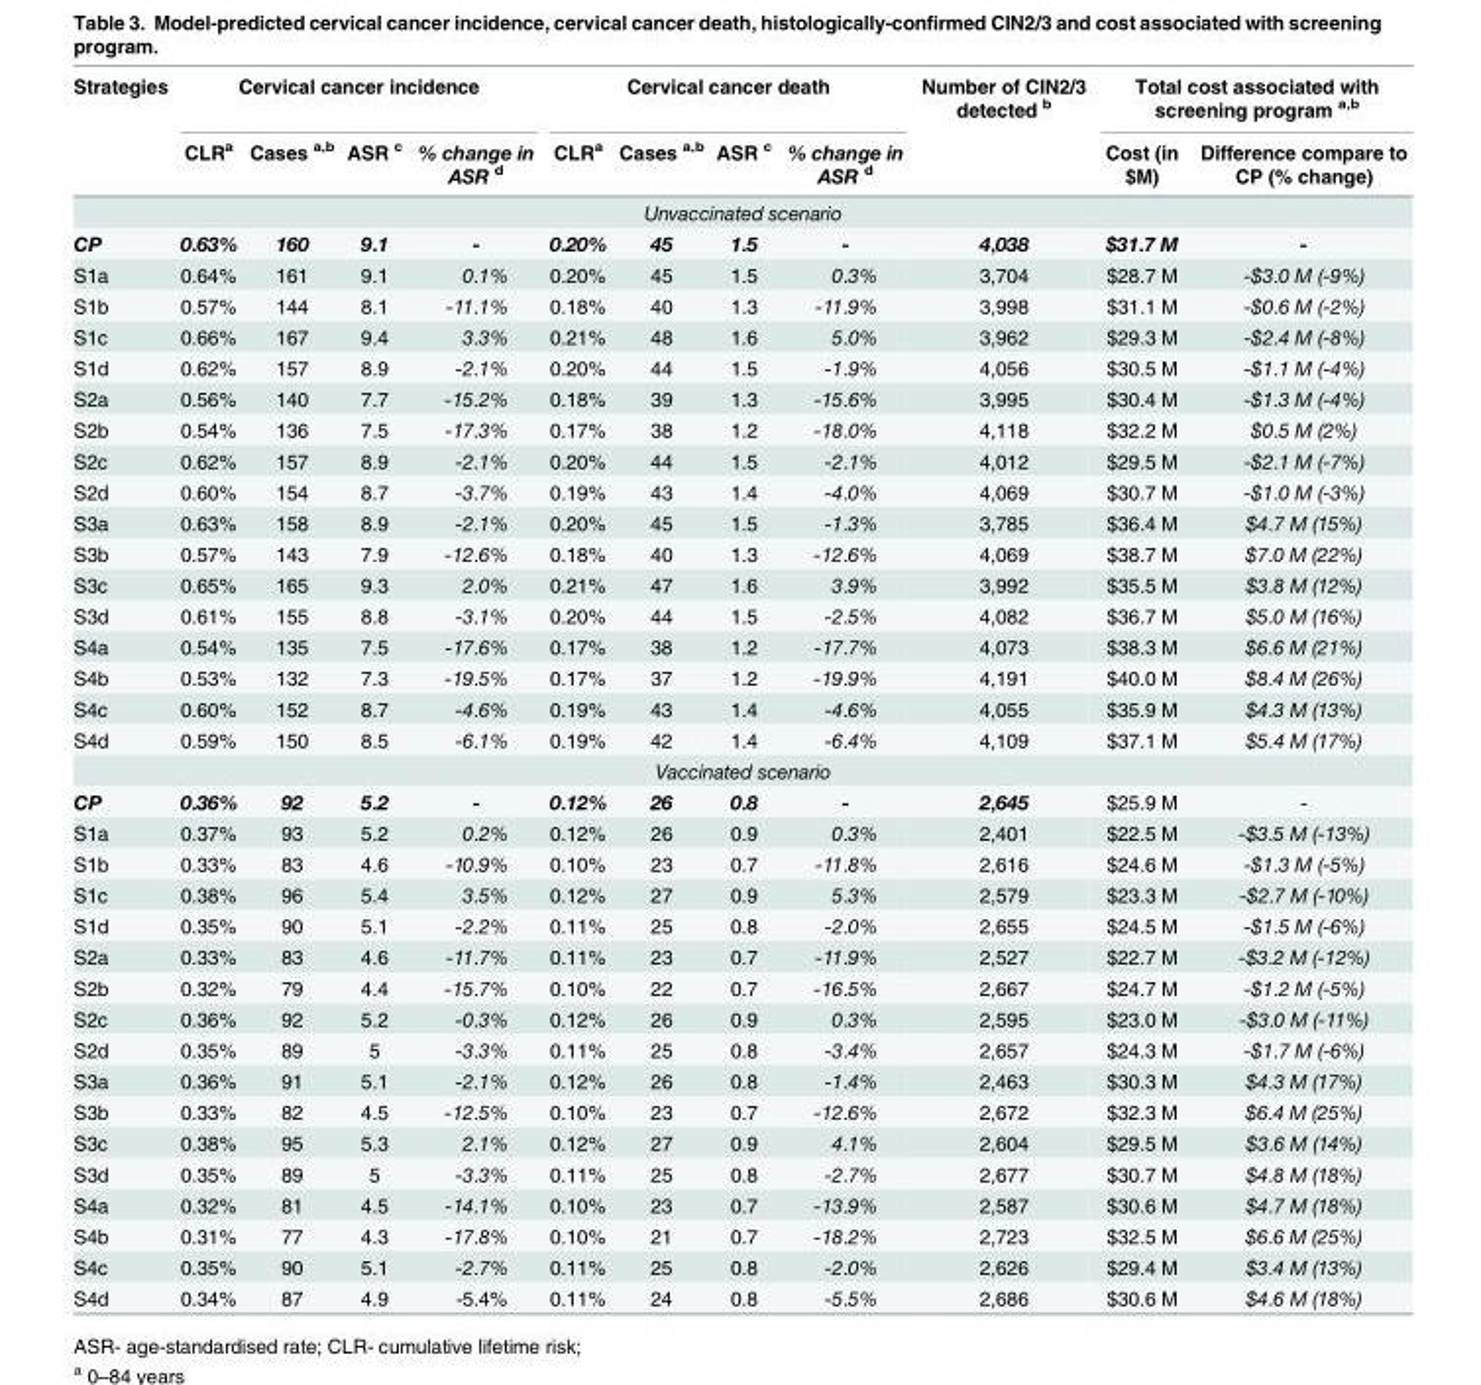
<table><thead><tr><td rowspan="2">Strategies</td><td colspan="4">Cervical cancer incidence</td><td colspan="4">Cervical cancer death</td><td rowspan="2">Number of CIN2/3 detected <sup>b</sup></td><td colspan="2">Total cost associated with screening program <sup>a,b</sup></td></tr><tr><td>CLR<sup>a</sup></td><td>Cases <sup>a,b</sup></td><td>ASR <sup>c</sup></td><td>% change in ASR <sup>d</sup></td><td>CLR<sup>a</sup></td><td>Cases <sup>a,b</sup></td><td>ASR <sup>c</sup></td><td>% change in ASR <sup>d</sup></td><td>Cost (in $M)</td><td>Difference compare to CP (% change)</td></tr></thead><tbody><tr><td colspan="12">Unvaccinated scenario</td></tr><tr><td>CP</td><td>0.63%</td><td>160</td><td>9.1</td><td>-</td><td>0.20%</td><td>45</td><td>1.5</td><td>-</td><td>4,038</td><td>$31.7 M</td><td>-</td></tr><tr><td>S1a</td><td>0.64%</td><td>161</td><td>9.1</td><td>0.1%</td><td>0.20%</td><td>45</td><td>1.5</td><td>0.3%</td><td>3,704</td><td>$28.7 M</td><td>-$3.0 M (-9%)</td></tr><tr><td>S1b</td><td>0.57%</td><td>144</td><td>8.1</td><td>-11.1%</td><td>0.18%</td><td>40</td><td>1.3</td><td>-11.9%</td><td>3,998</td><td>$31.1 M</td><td>-$0.6 M (-2%)</td></tr><tr><td>S1c</td><td>0.66%</td><td>167</td><td>9.4</td><td>3.3%</td><td>0.21%</td><td>48</td><td>1.6</td><td>5.0%</td><td>3,962</td><td>$29.3 M</td><td>-$2.4 M (-8%)</td></tr><tr><td>S1d</td><td>0.62%</td><td>157</td><td>8.9</td><td>-2.1%</td><td>0.20%</td><td>44</td><td>1.5</td><td>-1.9%</td><td>4,056</td><td>$30.5 M</td><td>-$1.1 M (-4%)</td></tr><tr><td>S2a</td><td>0.56%</td><td>140</td><td>7.7</td><td>-15.2%</td><td>0.18%</td><td>39</td><td>1.3</td><td>-15.6%</td><td>3,995</td><td>$30.4 M</td><td>-$1.3 M (-4%)</td></tr><tr><td>S2b</td><td>0.54%</td><td>136</td><td>7.5</td><td>-17.3%</td><td>0.17%</td><td>38</td><td>1.2</td><td>-18.0%</td><td>4,118</td><td>$32.2 M</td><td>$0.5 M (2%)</td></tr><tr><td>S2c</td><td>0.62%</td><td>157</td><td>8.9</td><td>-2.1%</td><td>0.20%</td><td>44</td><td>1.5</td><td>-2.1%</td><td>4,012</td><td>$29.5 M</td><td>-$2.1 M (-7%)</td></tr><tr><td>S2d</td><td>0.60%</td><td>154</td><td>8.7</td><td>-3.7%</td><td>0.19%</td><td>43</td><td>1.4</td><td>-4.0%</td><td>4,069</td><td>$30.7 M</td><td>-$1.0 M (-3%)</td></tr><tr><td>S3a</td><td>0.63%</td><td>158</td><td>8.9</td><td>-2.1%</td><td>0.20%</td><td>45</td><td>1.5</td><td>-1.3%</td><td>3,785</td><td>$36.4 M</td><td>$4.7 M (15%)</td></tr><tr><td>S3b</td><td>0.57%</td><td>143</td><td>7.9</td><td>-12.6%</td><td>0.18%</td><td>40</td><td>1.3</td><td>-12.6%</td><td>4,069</td><td>$38.7 M</td><td>$7.0 M (22%)</td></tr><tr><td>S3c</td><td>0.65%</td><td>165</td><td>9.3</td><td>2.0%</td><td>0.21%</td><td>47</td><td>1.6</td><td>3.9%</td><td>3,992</td><td>$35.5 M</td><td>$3.8 M (12%)</td></tr><tr><td>S3d</td><td>0.61%</td><td>155</td><td>8.8</td><td>-3.1%</td><td>0.20%</td><td>44</td><td>1.5</td><td>-2.5%</td><td>4,082</td><td>$36.7 M</td><td>$5.0 M (16%)</td></tr><tr><td>S4a</td><td>0.54%</td><td>135</td><td>7.5</td><td>-17.6%</td><td>0.17%</td><td>38</td><td>1.2</td><td>-17.7%</td><td>4,073</td><td>$38.3 M</td><td>$6.6 M (21%)</td></tr><tr><td>S4b</td><td>0.53%</td><td>132</td><td>7.3</td><td>-19.5%</td><td>0.17%</td><td>37</td><td>1.2</td><td>-19.9%</td><td>4,191</td><td>$40.0 M</td><td>$8.4 M (26%)</td></tr><tr><td>S4c</td><td>0.60%</td><td>152</td><td>8.7</td><td>-4.6%</td><td>0.19%</td><td>43</td><td>1.4</td><td>-4.6%</td><td>4,055</td><td>$35.9 M</td><td>$4.3 M (13%)</td></tr><tr><td>S4d</td><td>0.59%</td><td>150</td><td>8.5</td><td>-6.1%</td><td>0.19%</td><td>42</td><td>1.4</td><td>-6.4%</td><td>4,109</td><td>$37.1 M</td><td>$5.4 M (17%)</td></tr><tr><td colspan="12">Vaccinated scenario</td></tr><tr><td>CP</td><td>0.36%</td><td>92</td><td>5.2</td><td>-</td><td>0.12%</td><td>26</td><td>0.8</td><td>-</td><td>2,645</td><td>$25.9 M</td><td>-</td></tr><tr><td>S1a</td><td>0.37%</td><td>93</td><td>5.2</td><td>0.2%</td><td>0.12%</td><td>26</td><td>0.9</td><td>0.3%</td><td>2,401</td><td>$22.5 M</td><td>-$3.5 M (-13%)</td></tr><tr><td>S1b</td><td>0.33%</td><td>83</td><td>4.6</td><td>-10.9%</td><td>0.10%</td><td>23</td><td>0.7</td><td>-11.8%</td><td>2,616</td><td>$24.6 M</td><td>-$1.3 M (-5%)</td></tr><tr><td>S1c</td><td>0.38%</td><td>96</td><td>5.4</td><td>3.5%</td><td>0.12%</td><td>27</td><td>0.9</td><td>5.3%</td><td>2,579</td><td>$23.3 M</td><td>-$2.7 M (-10%)</td></tr><tr><td>S1d</td><td>0.35%</td><td>90</td><td>5.1</td><td>-2.2%</td><td>0.11%</td><td>25</td><td>0.8</td><td>-2.0%</td><td>2,655</td><td>$24.5 M</td><td>-$1.5 M (-6%)</td></tr><tr><td>S2a</td><td>0.33%</td><td>83</td><td>4.6</td><td>-11.7%</td><td>0.11%</td><td>23</td><td>0.7</td><td>-11.9%</td><td>2,527</td><td>$22.7 M</td><td>-$3.2 M (-12%)</td></tr><tr><td>S2b</td><td>0.32%</td><td>79</td><td>4.4</td><td>-15.7%</td><td>0.10%</td><td>22</td><td>0.7</td><td>-16.5%</td><td>2,667</td><td>$24.7 M</td><td>-$1.2 M (-5%)</td></tr><tr><td>S2c</td><td>0.36%</td><td>92</td><td>5.2</td><td>-0.3%</td><td>0.12%</td><td>26</td><td>0.9</td><td>0.3%</td><td>2,595</td><td>$23.0 M</td><td>-$3.0 M (-11%)</td></tr><tr><td>S2d</td><td>0.35%</td><td>89</td><td>5</td><td>-3.3%</td><td>0.11%</td><td>25</td><td>0.8</td><td>-3.4%</td><td>2,657</td><td>$24.3 M</td><td>-$1.7 M (-6%)</td></tr><tr><td>S3a</td><td>0.36%</td><td>91</td><td>5.1</td><td>-2.1%</td><td>0.12%</td><td>26</td><td>0.8</td><td>-1.4%</td><td>2,463</td><td>$30.3 M</td><td>$4.3 M (17%)</td></tr><tr><td>S3b</td><td>0.33%</td><td>82</td><td>4.5</td><td>-12.5%</td><td>0.10%</td><td>23</td><td>0.7</td><td>-12.6%</td><td>2,672</td><td>$32.3 M</td><td>$6.4 M (25%)</td></tr><tr><td>S3c</td><td>0.38%</td><td>95</td><td>5.3</td><td>2.1%</td><td>0.12%</td><td>27</td><td>0.9</td><td>4.1%</td><td>2,604</td><td>$29.5 M</td><td>$3.6 M (14%)</td></tr><tr><td>S3d</td><td>0.35%</td><td>89</td><td>5</td><td>-3.3%</td><td>0.11%</td><td>25</td><td>0.8</td><td>-2.7%</td><td>2,677</td><td>$30.7 M</td><td>$4.8 M (18%)</td></tr><tr><td>S4a</td><td>0.32%</td><td>81</td><td>4.5</td><td>-14.1%</td><td>0.10%</td><td>23</td><td>0.7</td><td>-13.9%</td><td>2,587</td><td>$30.6 M</td><td>$4.7 M (18%)</td></tr><tr><td>S4b</td><td>0.31%</td><td>77</td><td>4.3</td><td>-17.8%</td><td>0.10%</td><td>21</td><td>0.7</td><td>-18.2%</td><td>2,723</td><td>$32.5 M</td><td>$6.6 M (25%)</td></tr><tr><td>S4c</td><td>0.35%</td><td>90</td><td>5.1</td><td>-2.7%</td><td>0.11%</td><td>25</td><td>0.8</td><td>-2.0%</td><td>2,626</td><td>$29.4 M</td><td>$3.4 M (13%)</td></tr><tr><td>S4d</td><td>0.34%</td><td>87</td><td>4.9</td><td>-5.4%</td><td>0.11%</td><td>24</td><td>0.8</td><td>-5.5%</td><td>2,686</td><td>$30.6 M</td><td>$4.6 M (18%)</td></tr></tbody></table>